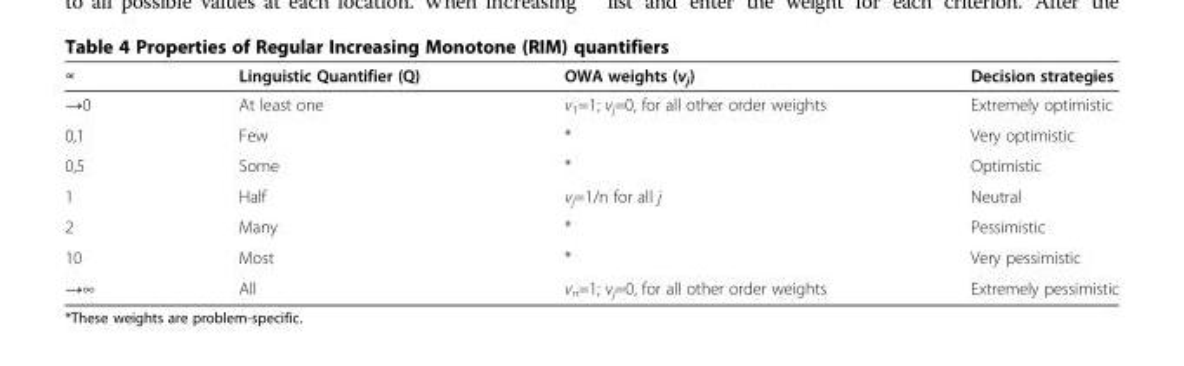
<table><thead><tr><td>∝</td><td>Linguistic Quantifier (Q)</td><td>OWA weights (v<sub>j</sub>)</td><td>Decision strategies</td></tr></thead><tbody><tr><td>→0</td><td>At least one</td><td>v<sub>1</sub>=1; v<sub>j</sub>=0, for all other order weights</td><td>Extremely optimistic</td></tr><tr><td>0,1</td><td>Few</td><td>*</td><td>Very optimistic</td></tr><tr><td>0,5</td><td>Some</td><td>*</td><td>Optimistic</td></tr><tr><td>1</td><td>Half</td><td>v<sub>j</sub>=1/n for all j</td><td>Neutral</td></tr><tr><td>2</td><td>Many</td><td>*</td><td>Pessimistic</td></tr><tr><td>10</td><td>Most</td><td>*</td><td>Very pessimistic</td></tr><tr><td>→∞</td><td>All</td><td>v<sub>n</sub>=1; v<sub>j</sub>=0, for all other order weights</td><td>Extremely pessimistic</td></tr></tbody></table>